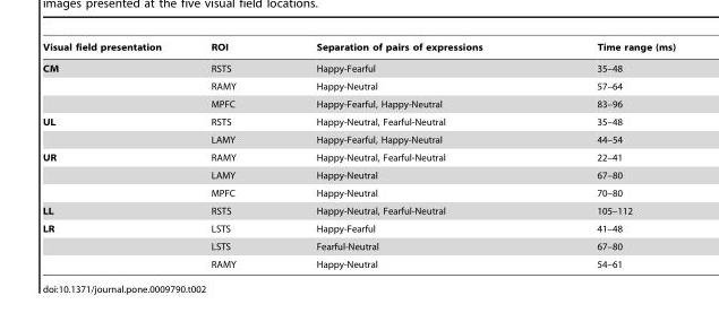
<table><thead><tr><td>Visual field presentation</td><td>ROI</td><td>Separation of pairs of expressions</td><td>Time range (ms)</td></tr></thead><tbody><tr><td rowspan="3">CM</td><td>RSTS</td><td>Happy-Fearful</td><td>35–48</td></tr><tr><td>RAMY</td><td>Happy-Neutral</td><td>57–64</td></tr><tr><td>MPFC</td><td>Happy-Fearful, Happy-Neutral</td><td>83–96</td></tr><tr><td rowspan="2">UL</td><td>RSTS</td><td>Happy-Neutral, Fearful-Neutral</td><td>35–48</td></tr><tr><td>LAMY</td><td>Happy-Fearful, Happy-Neutral</td><td>44–54</td></tr><tr><td rowspan="3">UR</td><td>RAMY</td><td>Happy-Neutral, Fearful-Neutral</td><td>22–41</td></tr><tr><td>LAMY</td><td>Happy-Neutral</td><td>67–80</td></tr><tr><td>MPFC</td><td>Happy-Neutral</td><td>70–80</td></tr><tr><td>LL</td><td>RSTS</td><td>Happy-Neutral, Fearful-Neutral</td><td>105–112</td></tr><tr><td rowspan="3">LR</td><td>LSTS</td><td>Happy-Fearful</td><td>41–48</td></tr><tr><td>LSTS</td><td>Fearful-Neutral</td><td>67–80</td></tr><tr><td>RAMY</td><td>Happy-Neutral</td><td>54–61</td></tr></tbody></table>